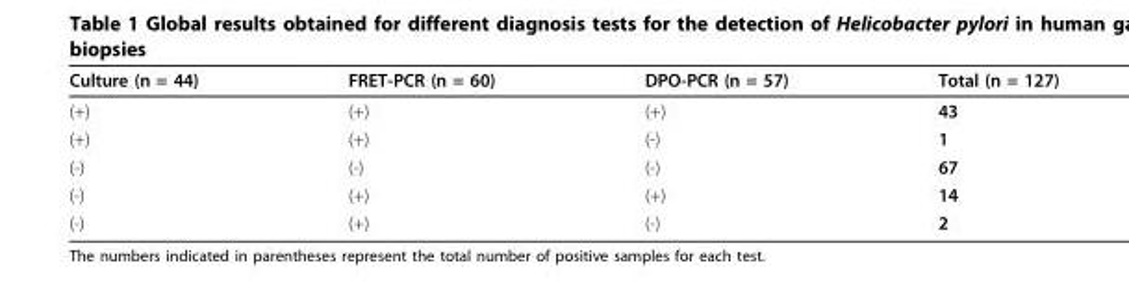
<table><thead><tr><td>Culture (n = 44)</td><td>FRET-PCR (n = 60)</td><td>DPO-PCR (n = 57)</td><td>Total (n = 127)</td></tr></thead><tbody><tr><td>(+)</td><td>(+)</td><td>(+)</td><td>43</td></tr><tr><td>(+)</td><td>(+)</td><td>(-)</td><td>1</td></tr><tr><td>(-)</td><td>(-)</td><td>(-)</td><td>67</td></tr><tr><td>(-)</td><td>(+)</td><td>(+)</td><td>14</td></tr><tr><td>(-)</td><td>(+)</td><td>(-)</td><td>2</td></tr></tbody></table>